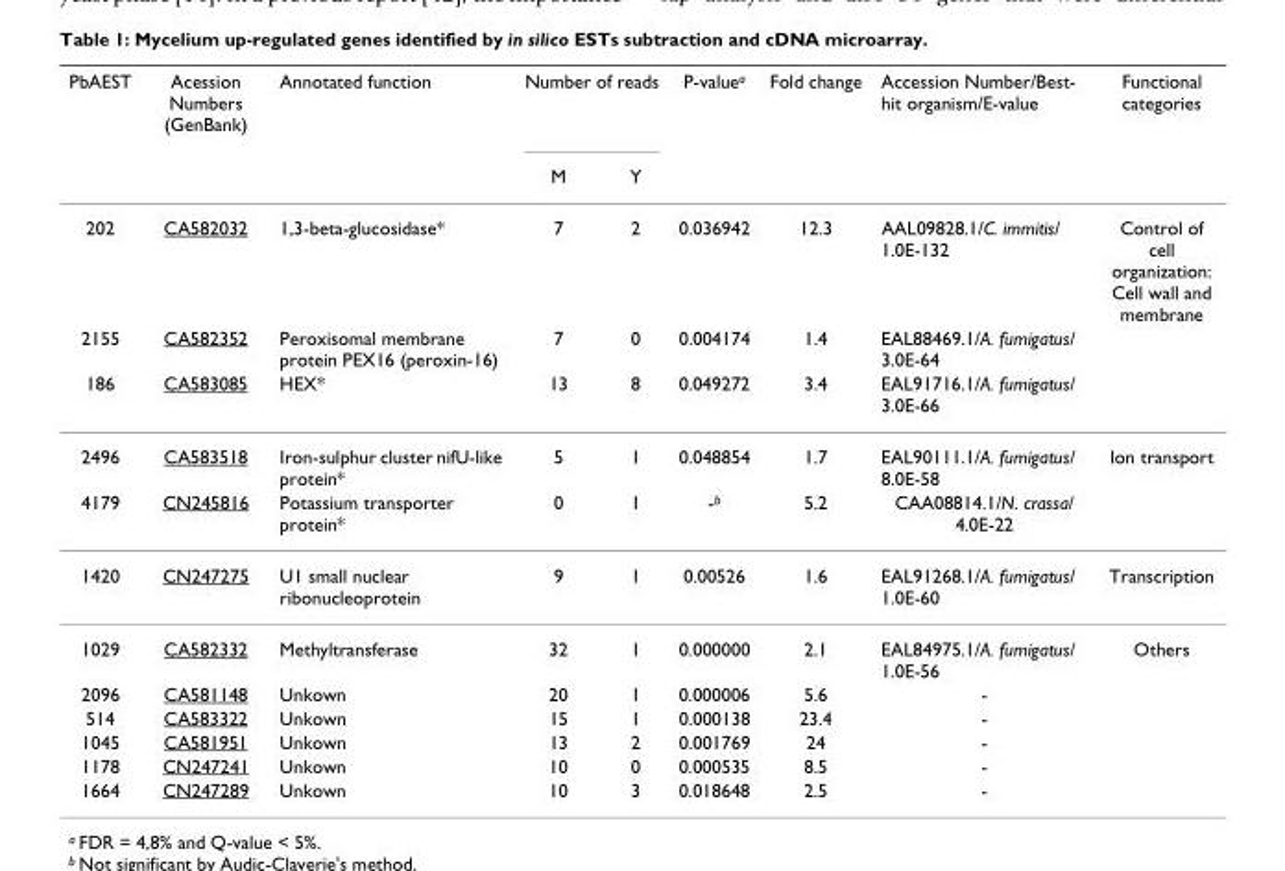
<table><thead><tr><td rowspan="2">PbAEST</td><td rowspan="2">Acession Numbers (GenBank)</td><td rowspan="2">Annotated function</td><td colspan="2">Number of reads</td><td rowspan="2">P-value<sup>a</sup></td><td rowspan="2">Fold change</td><td rowspan="2">Accession Number/Best- hit organism/E-value</td><td rowspan="2">Functional categories</td></tr><tr><td>M</td><td>Y</td></tr></thead><tbody><tr><td>202</td><td>CA582032</td><td>1,3-beta-glucosidase*</td><td>7</td><td>2</td><td>0.036942</td><td>12.3</td><td>AAL09828.1/C. immitis/ 1.0E-132</td><td>Control of cell organization: Cell wall and membrane</td></tr><tr><td>2155</td><td>CA582352</td><td>Peroxisomal membrane protein PEX16 (peroxin-16)</td><td>7</td><td>0</td><td>0.004174</td><td>1.4</td><td>EAL88469.1/A. fumigatus/ 3.0E-64</td><td></td></tr><tr><td>186</td><td>CA583085</td><td>HEX*</td><td>13</td><td>8</td><td>0.049272</td><td>3.4</td><td>EAL91716.1/A. fumigatus/ 3.0E-66</td><td></td></tr><tr><td>2496</td><td>CA583518</td><td>Iron-sulphur cluster nifU-like protein*</td><td>5</td><td>1</td><td>0.048854</td><td>1.7</td><td>EAL90111.1/A. fumigatus/ 8.0E-58</td><td>Ion transport</td></tr><tr><td>4179</td><td>CN245816</td><td>Potassium transporter protein*</td><td>0</td><td>1</td><td>-<sup>b</sup></td><td>5.2</td><td>CAA08814.1/N. crassa/ 4.0E-22</td><td></td></tr><tr><td>1420</td><td>CN247275</td><td>U1 small nuclear ribonucleoprotein</td><td>9</td><td>1</td><td>0.00526</td><td>1.6</td><td>EAL91268.1/A. fumigatus/ 1.0E-60</td><td>Transcription</td></tr><tr><td>1029</td><td>CA582332</td><td>Methyltransferase</td><td>32</td><td>1</td><td>0.000000</td><td>2.1</td><td>EAL84975.1/A. fumigatus/ 1.0E-56</td><td>Others</td></tr><tr><td>2096</td><td>CA581148</td><td>Unkown</td><td>20</td><td>1</td><td>0.000006</td><td>5.6</td><td>-</td><td></td></tr><tr><td>514</td><td>CA583322</td><td>Unkown</td><td>15</td><td>1</td><td>0.000138</td><td>23.4</td><td>-</td><td></td></tr><tr><td>1045</td><td>CA581951</td><td>Unkown</td><td>13</td><td>2</td><td>0.001769</td><td>24</td><td>-</td><td></td></tr><tr><td>1178</td><td>CN247241</td><td>Unkown</td><td>10</td><td>0</td><td>0.000535</td><td>8.5</td><td>-</td><td></td></tr><tr><td>1664</td><td>CN247289</td><td>Unkown</td><td>10</td><td>3</td><td>0.018648</td><td>2.5</td><td>-</td><td></td></tr></tbody></table>